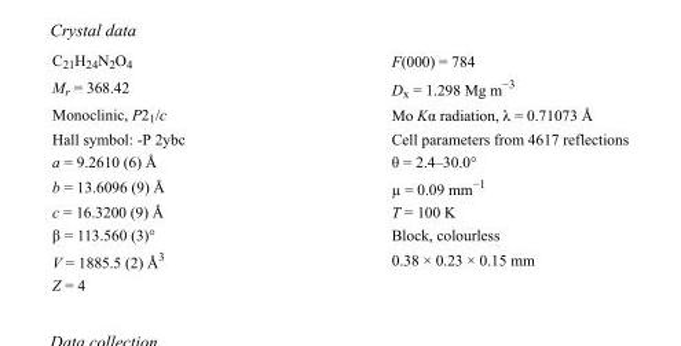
<table><tbody><tr><td>C<sub>21</sub>H<sub>24</sub>N<sub>2</sub>O<sub>4</sub></td><td>F(000) = 784</td></tr><tr><td>M<sub>r</sub> = 368.42</td><td>D<sub>x</sub> = 1.298 Mg m<sup>−3</sup></td></tr><tr><td>Monoclinic, P2<sub>1</sub>/c</td><td>Mo Kα radiation, λ = 0.71073 Å</td></tr><tr><td>Hall symbol: -P 2ybc</td><td>Cell parameters from 4617 reflections</td></tr><tr><td>a = 9.2610 (6) Å</td><td>θ = 2.4–30.0°</td></tr><tr><td>b = 13.6096 (9) Å</td><td>µ = 0.09 mm<sup>−1</sup></td></tr><tr><td>c = 16.3200 (9) Å</td><td>T = 100 K</td></tr><tr><td>β = 113.560 (3)°</td><td>Block, colourless</td></tr><tr><td>V = 1885.5 (2) Å<sup>3</sup></td><td>0.38 × 0.23 × 0.15 mm</td></tr><tr><td>Z = 4</td><td></td></tr></tbody></table>